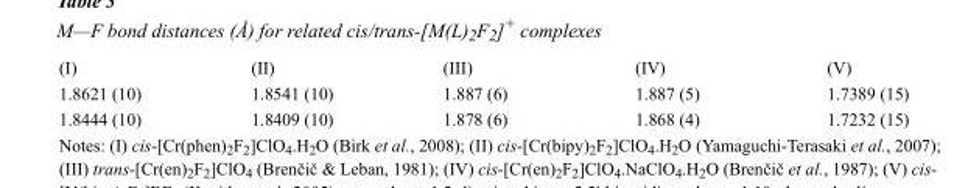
<table><thead><tr><td>(I)</td><td>(II)</td><td>(III)</td><td>(IV)</td><td>(V)</td></tr></thead><tbody><tr><td>1.8621 (10)</td><td>1.8541 (10)</td><td>1.887 (6)</td><td>1.887 (5)</td><td>1.7389 (15)</td></tr><tr><td>1.8444 (10)</td><td>1.8409 (10)</td><td>1.878 (6)</td><td>1.868 (4)</td><td>1.7232 (15)</td></tr></tbody></table>